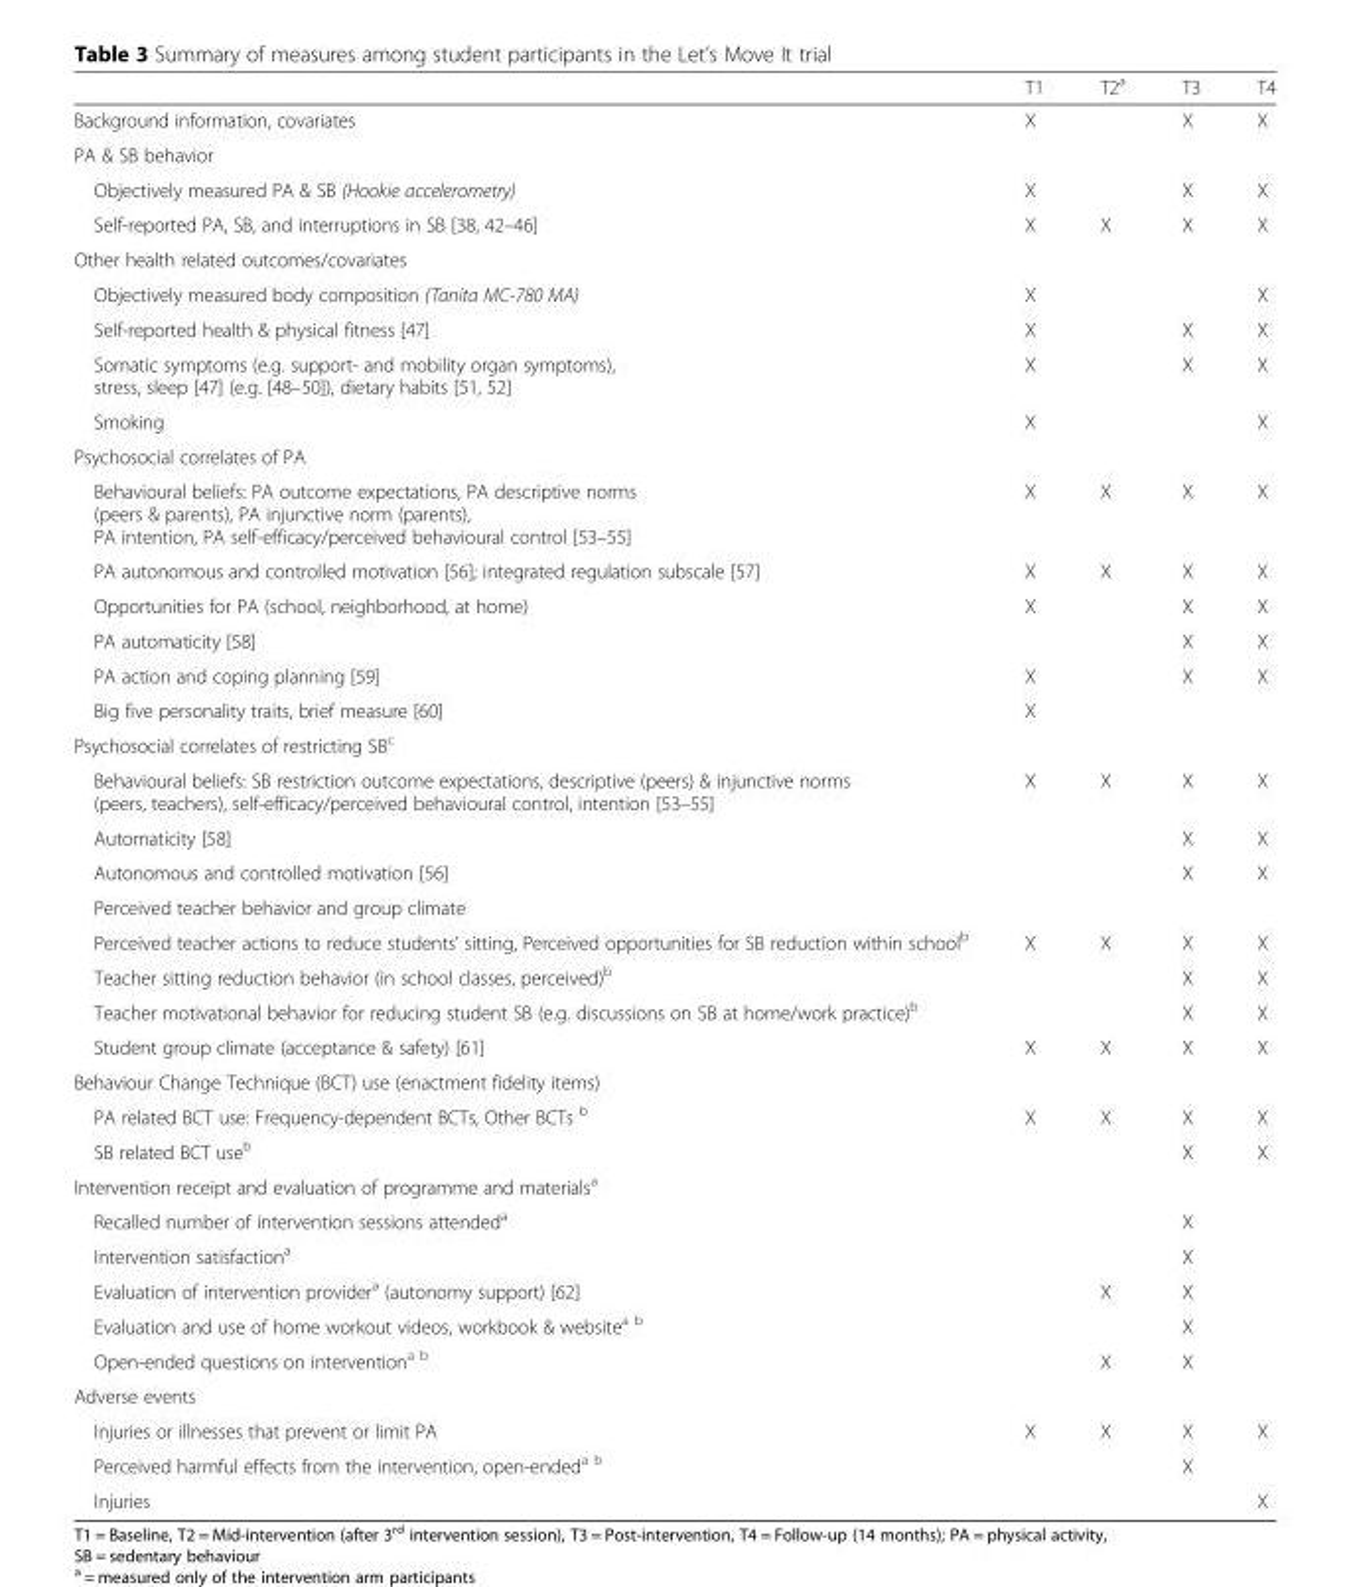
<table><thead><tr><td></td><td>T1</td><td>T2<sup>a</sup></td><td>T3</td><td>T4</td></tr></thead><tbody><tr><td>Background information, covariates</td><td>X</td><td></td><td>X</td><td>X</td></tr><tr><td colspan="5">PA &amp; SB behavior</td></tr><tr><td>Objectively measured PA &amp; SB (Hookie accelerometry)</td><td>X</td><td></td><td>X</td><td>X</td></tr><tr><td>Self-reported PA, SB, and interruptions in SB [38, 42–46]</td><td>X</td><td>X</td><td>X</td><td>X</td></tr><tr><td colspan="5">Other health related outcomes/covariates</td></tr><tr><td>Objectively measured body composition (Tanita MC-780 MA)</td><td>X</td><td></td><td></td><td>X</td></tr><tr><td>Self-reported health &amp; physical fitness [47]</td><td>X</td><td></td><td>X</td><td>X</td></tr><tr><td>Somatic symptoms (e.g. support- and mobility organ symptoms), stress, sleep [47] (e.g. [48–50]), dietary habits [51, 52]</td><td>X</td><td></td><td>X</td><td>X</td></tr><tr><td>Smoking</td><td>X</td><td></td><td></td><td>X</td></tr><tr><td colspan="5">Psychosocial correlates of PA</td></tr><tr><td>Behavioural beliefs: PA outcome expectations, PA descriptive norms (peers &amp; parents), PA injunctive norm (parents), PA intention, PA self-efficacy/perceived behavioural control [53–55]</td><td>X</td><td>X</td><td>X</td><td>X</td></tr><tr><td>PA autonomous and controlled motivation [56]; integrated regulation subscale [57]</td><td>X</td><td>X</td><td>X</td><td>X</td></tr><tr><td>Opportunities for PA (school, neighborhood, at home)</td><td>X</td><td></td><td>X</td><td>X</td></tr><tr><td>PA automaticity [58]</td><td></td><td></td><td>X</td><td>X</td></tr><tr><td>PA action and coping planning [59]</td><td>X</td><td></td><td>X</td><td>X</td></tr><tr><td>Big five personality traits, brief measure [60]</td><td>X</td><td></td><td></td><td></td></tr><tr><td colspan="5">Psychosocial correlates of restricting SB<sup>c</sup></td></tr><tr><td>Behavioural beliefs: SB restriction outcome expectations, descriptive (peers) &amp; injunctive norms (peers, teachers), self-efficacy/perceived behavioural control, intention [53–55]</td><td>X</td><td>X</td><td>X</td><td>X</td></tr><tr><td>Automaticity [58]</td><td></td><td></td><td>X</td><td>X</td></tr><tr><td>Autonomous and controlled motivation [56]</td><td></td><td></td><td>X</td><td>X</td></tr><tr><td colspan="5">Perceived teacher behavior and group climate</td></tr><tr><td>Perceived teacher actions to reduce students’ sitting, Perceived opportunities for SB reduction within school<sup>b</sup></td><td>X</td><td>X</td><td>X</td><td>X</td></tr><tr><td>Teacher sitting reduction behavior (in school classes, perceived)<sup>b</sup></td><td></td><td></td><td>X</td><td>X</td></tr><tr><td>Teacher motivational behavior for reducing student SB (e.g. discussions on SB at home/work practice)<sup>b</sup></td><td></td><td></td><td>X</td><td>X</td></tr><tr><td>Student group climate (acceptance &amp; safety) [61]</td><td>X</td><td>X</td><td>X</td><td>X</td></tr><tr><td colspan="5">Behaviour Change Technique (BCT) use (enactment fidelity items)</td></tr><tr><td>PA related BCT use: Frequency-dependent BCTs, Other BCTs <sup>b</sup></td><td>X</td><td>X</td><td>X</td><td>X</td></tr><tr><td>SB related BCT use<sup>b</sup></td><td></td><td></td><td>X</td><td>X</td></tr><tr><td colspan="5">Intervention receipt and evaluation of programme and materials<sup>a</sup></td></tr><tr><td>Recalled number of intervention sessions attended<sup>a</sup></td><td></td><td></td><td>X</td><td></td></tr><tr><td>Intervention satisfaction<sup>a</sup></td><td></td><td></td><td>X</td><td></td></tr><tr><td>Evaluation of intervention provider<sup>a</sup> (autonomy support) [62]</td><td></td><td>X</td><td>X</td><td></td></tr><tr><td>Evaluation and use of home workout videos, workbook &amp; website<sup>a b</sup></td><td></td><td></td><td>X</td><td></td></tr><tr><td>Open-ended questions on intervention<sup>a b</sup></td><td></td><td>X</td><td>X</td><td></td></tr><tr><td colspan="5">Adverse events</td></tr><tr><td>Injuries or illnesses that prevent or limit PA</td><td>X</td><td>X</td><td>X</td><td>X</td></tr><tr><td>Perceived harmful effects from the intervention, open-ended<sup>a b</sup></td><td></td><td></td><td>X</td><td></td></tr><tr><td>Injuries</td><td></td><td></td><td></td><td>X</td></tr></tbody></table>